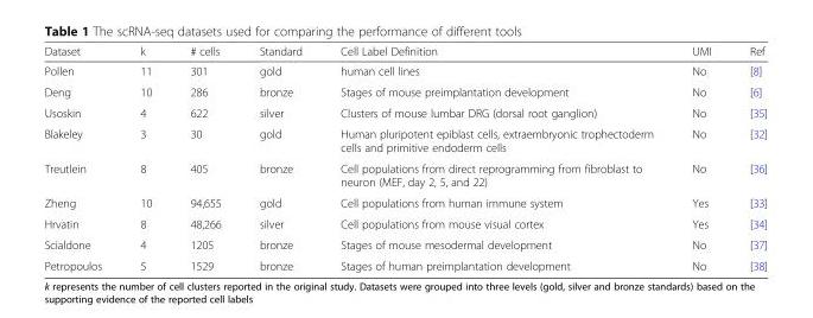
<table><thead><tr><td>Dataset</td><td>k</td><td># cells</td><td>Standard</td><td>Cell Label Definition</td><td>UMI</td><td>Ref</td></tr></thead><tbody><tr><td>Pollen</td><td>11</td><td>301</td><td>gold</td><td>human cell lines</td><td>No</td><td>[8]</td></tr><tr><td>Deng</td><td>10</td><td>286</td><td>bronze</td><td>Stages of mouse preimplantation development</td><td>No</td><td>[6]</td></tr><tr><td>Usoskin</td><td>4</td><td>622</td><td>silver</td><td>Clusters of mouse lumbar DRG (dorsal root ganglion)</td><td>No</td><td>[35]</td></tr><tr><td>Blakeley</td><td>3</td><td>30</td><td>gold</td><td>Human pluripotent epiblast cells, extraembryonic trophectoderm cells and primitive endoderm cells</td><td>No</td><td>[32]</td></tr><tr><td>Treutlein</td><td>8</td><td>405</td><td>bronze</td><td>Cell populations from direct reprogramming from fibroblast to neuron (MEF, day 2, 5, and 22)</td><td>No</td><td>[36]</td></tr><tr><td>Zheng</td><td>10</td><td>94,655</td><td>gold</td><td>Cell populations from human immune system</td><td>Yes</td><td>[33]</td></tr><tr><td>Hrvatin</td><td>8</td><td>48,266</td><td>silver</td><td>Cell populations from mouse visual cortex</td><td>Yes</td><td>[34]</td></tr><tr><td>Scialdone</td><td>4</td><td>1205</td><td>bronze</td><td>Stages of mouse mesodermal development</td><td>No</td><td>[37]</td></tr><tr><td>Petropoulos</td><td>5</td><td>1529</td><td>bronze</td><td>Stages of human preimplantation development</td><td>No</td><td>[38]</td></tr></tbody></table>